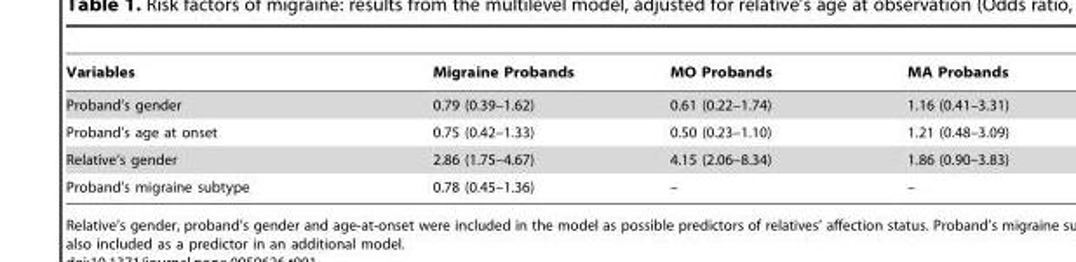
<table><thead><tr><td>Variables</td><td>Migraine Probands</td><td>MO Probands</td><td>MA Probands</td></tr></thead><tbody><tr><td>Proband’s gender</td><td>0.79 (0.39–1.62)</td><td>0.61 (0.22–1.74)</td><td>1.16 (0.41–3.31)</td></tr><tr><td>Proband’s age at onset</td><td>0.75 (0.42–1.33)</td><td>0.50 (0.23–1.10)</td><td>1.21 (0.48–3.09)</td></tr><tr><td>Relative’s gender</td><td>2.86 (1.75–4.67)</td><td>4.15 (2.06–8.34)</td><td>1.86 (0.90–3.83)</td></tr><tr><td>Proband’s migraine subtype</td><td>0.78 (0.45–1.36)</td><td>–</td><td>–</td></tr></tbody></table>